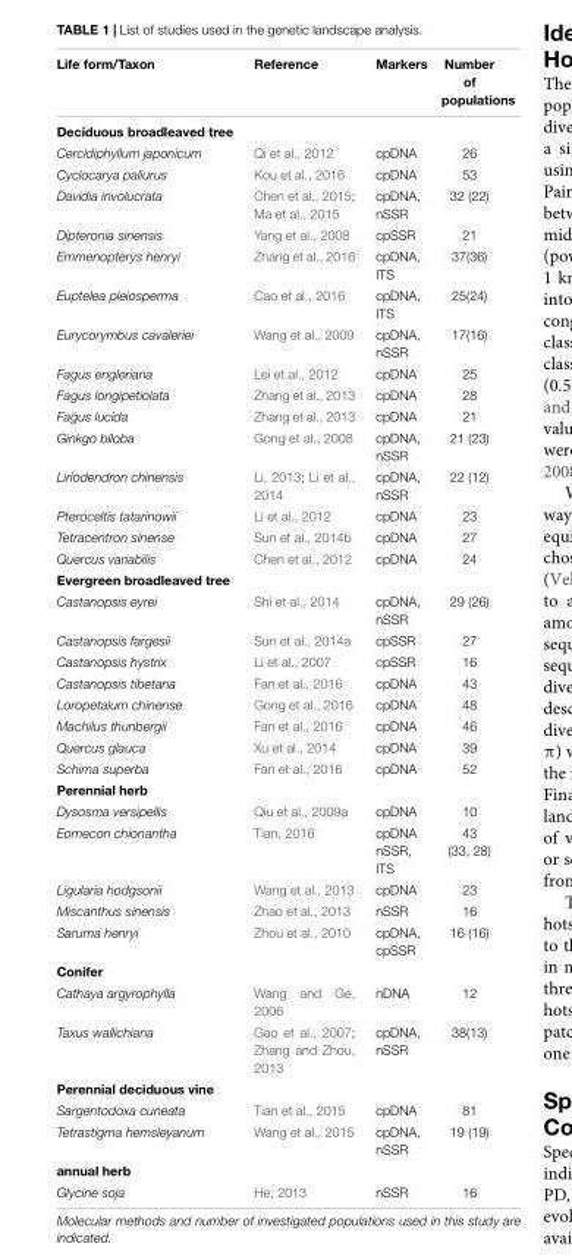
<table><thead><tr><td>Life form/Taxon</td><td>Reference</td><td>Markers</td><td>Number of populations</td></tr></thead><tbody><tr><td colspan="4">Deciduous broadleaved tree</td></tr><tr><td>Cercidiphyllum japonicum</td><td>Qi et al., 2012</td><td>cpDNA</td><td>26</td></tr><tr><td>Cyclocarya paliurus</td><td>Kou et al., 2016</td><td>cpDNA</td><td>53</td></tr><tr><td>Davidia involucrata</td><td>Chen et al., 2015; Ma et al., 2015</td><td>cpDNA, nSSR</td><td>32 (22)</td></tr><tr><td>Dipteronia sinensis</td><td>Yang et al., 2008</td><td>cpSSR</td><td>21</td></tr><tr><td>Emmenopterys henryi</td><td>Zhang et al., 2016</td><td>cpDNA, ITS</td><td>37(36)</td></tr><tr><td>Euptelea pleiosperma</td><td>Cao et al., 2016</td><td>cpDNA, ITS</td><td>25(24)</td></tr><tr><td>Eurycorymbus cavaleriei</td><td>Wang et al., 2009</td><td>cpDNA, nSSR</td><td>17(16)</td></tr><tr><td>Fagus engleriana</td><td>Lei et al., 2012</td><td>cpDNA</td><td>25</td></tr><tr><td>Fagus longipetiolata</td><td>Zhang et al., 2013</td><td>cpDNA</td><td>28</td></tr><tr><td>Fagus lucida</td><td>Zhang et al., 2013</td><td>cpDNA</td><td>21</td></tr><tr><td>Ginkgo biloba</td><td>Gong et al., 2008</td><td>cpDNA, nSSR</td><td>21 (23)</td></tr><tr><td>Liriodendron chinensis</td><td>Li, 2013; Li et al., 2014</td><td>cpDNA, nSSR</td><td>22 (12)</td></tr><tr><td>Pteroceltis tatarinowii</td><td>Li et al., 2012</td><td>cpDNA</td><td>23</td></tr><tr><td>Tetracentron sinense</td><td>Sun et al., 2014b</td><td>cpDNA</td><td>27</td></tr><tr><td>Quercus variabilis</td><td>Chen et al., 2012</td><td>cpDNA</td><td>24</td></tr><tr><td colspan="4">Evergreen broadleaved tree</td></tr><tr><td>Castanopsis eyrei</td><td>Shi et al., 2014</td><td>cpDNA, nSSR</td><td>29 (26)</td></tr><tr><td>Castanopsis fargesii</td><td>Sun et al., 2014a</td><td>cpSSR</td><td>27</td></tr><tr><td>Castanopsis hystrix</td><td>Li et al., 2007</td><td>cpSSR</td><td>16</td></tr><tr><td>Castanopsis tibetana</td><td>Fan et al., 2016</td><td>cpDNA</td><td>43</td></tr><tr><td>Loropetalum chinense</td><td>Gong et al., 2016</td><td>cpDNA</td><td>48</td></tr><tr><td>Machilus thunbergii</td><td>Fan et al., 2016</td><td>cpDNA</td><td>46</td></tr><tr><td>Quercus glauca</td><td>Xu et al., 2014</td><td>cpDNA</td><td>39</td></tr><tr><td>Schima superba</td><td>Fan et al., 2016</td><td>cpDNA</td><td>52</td></tr><tr><td colspan="4">Perennial herb</td></tr><tr><td>Dysosma versipellis</td><td>Qiu et al., 2009a</td><td>cpDNA</td><td>10</td></tr><tr><td>Eomecon chionantha</td><td>Tian, 2016</td><td>cpDNA nSSR, ITS</td><td>43 (33, 28)</td></tr><tr><td>Ligularia hodgsonii</td><td>Wang et al., 2013</td><td>cpDNA</td><td>23</td></tr><tr><td>Miscanthus sinensis</td><td>Zhao et al., 2013</td><td>nSSR</td><td>16</td></tr><tr><td>Saruma henryi</td><td>Zhou et al., 2010</td><td>cpDNA, cpSSR</td><td>16 (16)</td></tr><tr><td colspan="4">Conifer</td></tr><tr><td>Cathaya argyrophylla</td><td>Wang and Ge, 2006</td><td>nDNA</td><td>12</td></tr><tr><td>Taxus wallichiana</td><td>Gao et al., 2007; Zhang and Zhou, 2013</td><td>cpDNA, nSSR</td><td>38(13)</td></tr><tr><td colspan="4">Perennial deciduous vine</td></tr><tr><td>Sargentodoxa cuneata</td><td>Tian et al., 2015</td><td>cpDNA</td><td>81</td></tr><tr><td>Tetrastigma hemsleyanum</td><td>Wang et al., 2015</td><td>cpDNA, nSSR</td><td>19 (19)</td></tr><tr><td colspan="4">annual herb</td></tr><tr><td>Glycine soja</td><td>He, 2013</td><td>nSSR</td><td>16</td></tr></tbody></table>